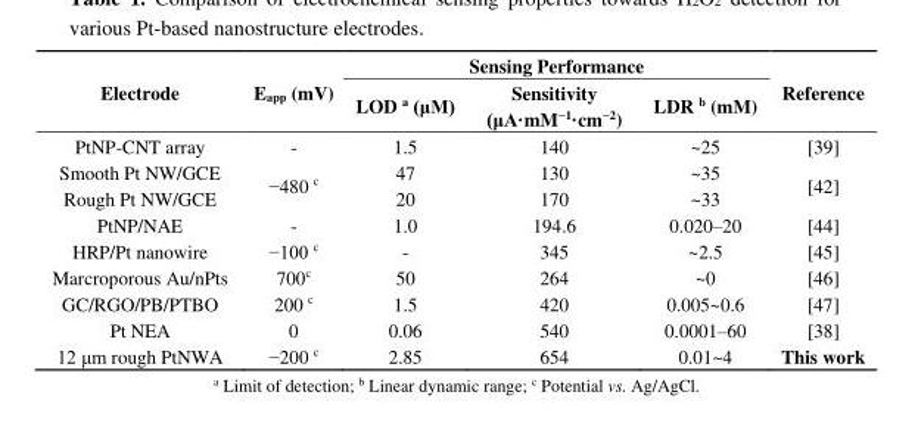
<table><thead><tr><td rowspan="2">Electrode</td><td rowspan="2">E<sub>app</sub> (mV)</td><td colspan="3">Sensing Performance</td><td rowspan="2">Reference</td></tr><tr><td>LOD <sup>a</sup> (μM)</td><td>Sensitivity (μA·mM<sup>−1</sup>·cm<sup>−2</sup>)</td><td>LDR <sup>b</sup> (mM)</td></tr></thead><tbody><tr><td>PtNP-CNT array</td><td>-</td><td>1.5</td><td>140</td><td>~25</td><td>[39]</td></tr><tr><td>Smooth Pt NW/GCE</td><td rowspan="2">−480 <sup>c</sup></td><td>47</td><td>130</td><td>~35</td><td rowspan="2">[42]</td></tr><tr><td>Rough Pt NW/GCE</td><td>20</td><td>170</td><td>~33</td></tr><tr><td>PtNP/NAE</td><td>-</td><td>1.0</td><td>194.6</td><td>0.020–20</td><td>[44]</td></tr><tr><td>HRP/Pt nanowire</td><td>−100 <sup>c</sup></td><td>-</td><td>345</td><td>~2.5</td><td>[45]</td></tr><tr><td>Marcroporous Au/nPts</td><td>700<sup>c</sup></td><td>50</td><td>264</td><td>~0</td><td>[46]</td></tr><tr><td>GC/RGO/PB/PTBO</td><td>200 <sup>c</sup></td><td>1.5</td><td>420</td><td>0.005~0.6</td><td>[47]</td></tr><tr><td>Pt NEA</td><td>0</td><td>0.06</td><td>540</td><td>0.0001–60</td><td>[38]</td></tr><tr><td>12 μm rough PtNWA</td><td>−200 <sup>c</sup></td><td>2.85</td><td>654</td><td>0.01~4</td><td>This work</td></tr></tbody></table>